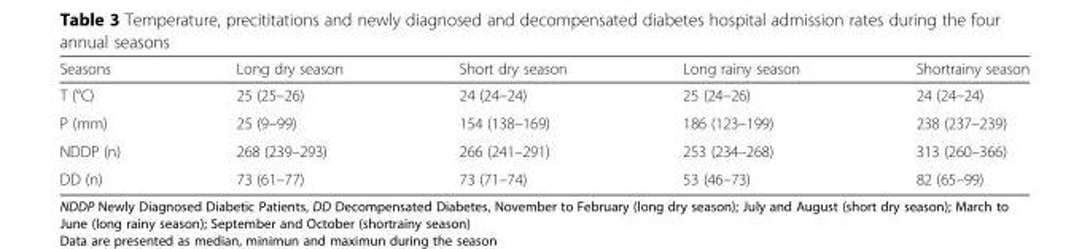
<table><thead><tr><td>Seasons</td><td>Long dry season</td><td>Short dry season</td><td>Long rainy season</td><td>Shortrainy season</td></tr></thead><tbody><tr><td>T (°C)</td><td>25 (25–26)</td><td>24 (24–24)</td><td>25 (24–26)</td><td>24 (24–24)</td></tr><tr><td>P (mm)</td><td>25 (9–99)</td><td>154 (138–169)</td><td>186 (123–199)</td><td>238 (237–239)</td></tr><tr><td>NDDP (n)</td><td>268 (239–293)</td><td>266 (241–291)</td><td>253 (234–268)</td><td>313 (260–366)</td></tr><tr><td>DD (n)</td><td>73 (61–77)</td><td>73 (71–74)</td><td>53 (46–73)</td><td>82 (65–99)</td></tr></tbody></table>